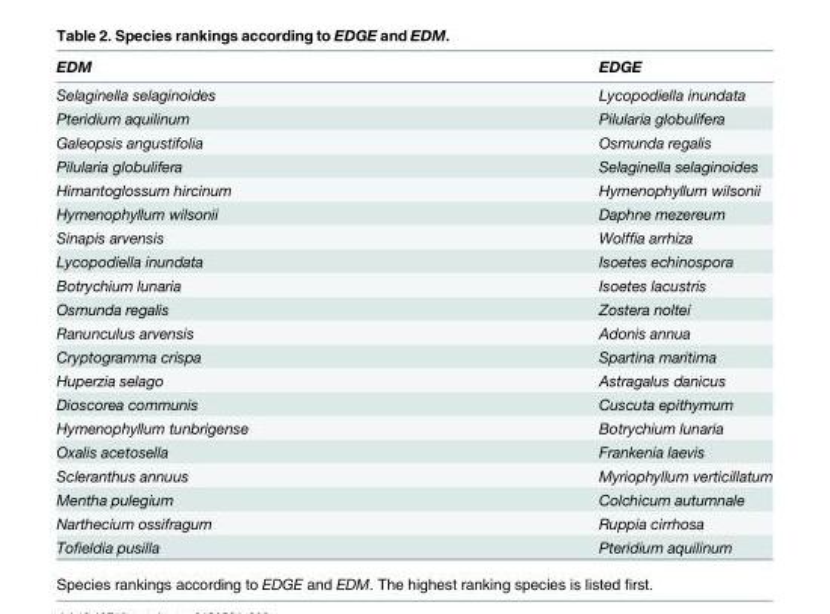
<table><thead><tr><td>EDM</td><td>EDGE</td></tr></thead><tbody><tr><td>Selaginella selaginoides</td><td>Lycopodiella inundata</td></tr><tr><td>Pteridium aquilinum</td><td>Pilularia globulifera</td></tr><tr><td>Galeopsis angustifolia</td><td>Osmunda regalis</td></tr><tr><td>Pilularia globulifera</td><td>Selaginella selaginoides</td></tr><tr><td>Himantoglossum hircinum</td><td>Hymenophyllum wilsonii</td></tr><tr><td>Hymenophyllum wilsonii</td><td>Daphne mezereum</td></tr><tr><td>Sinapis arvensis</td><td>Wolffia arrhiza</td></tr><tr><td>Lycopodiella inundata</td><td>Isoetes echinospora</td></tr><tr><td>Botrychium lunaria</td><td>Isoetes lacustris</td></tr><tr><td>Osmunda regalis</td><td>Zostera noltei</td></tr><tr><td>Ranunculus arvensis</td><td>Adonis annua</td></tr><tr><td>Cryptogramma crispa</td><td>Spartina maritima</td></tr><tr><td>Huperzia selago</td><td>Astragalus danicus</td></tr><tr><td>Dioscorea communis</td><td>Cuscuta epithymum</td></tr><tr><td>Hymenophyllum tunbrigense</td><td>Botrychium lunaria</td></tr><tr><td>Oxalis acetosella</td><td>Frankenia laevis</td></tr><tr><td>Scleranthus annuus</td><td>Myriophyllum verticillatum</td></tr><tr><td>Mentha pulegium</td><td>Colchicum autumnale</td></tr><tr><td>Narthecium ossifragum</td><td>Ruppia cirrhosa</td></tr><tr><td>Tofieldia pusilla</td><td>Pteridium aquilinum</td></tr></tbody></table>